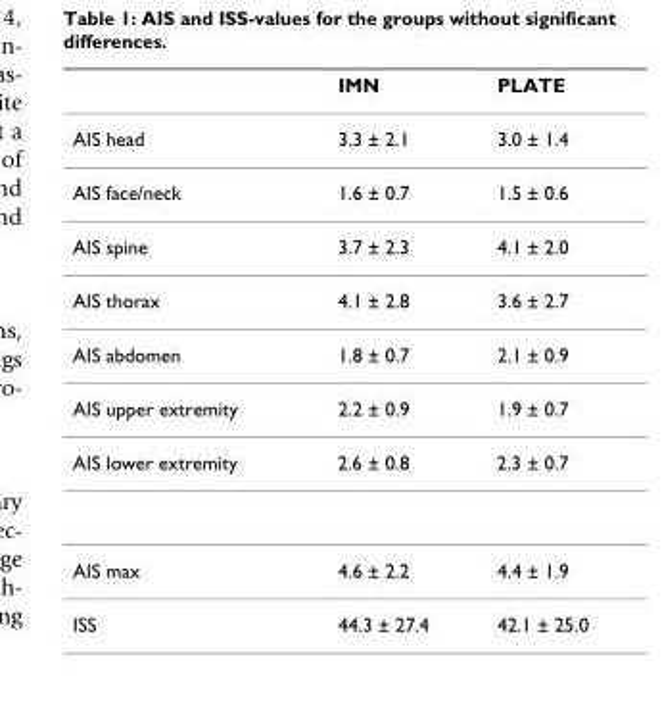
<table><thead><tr><td></td><td>IMN</td><td>PLATE</td></tr></thead><tbody><tr><td>AIS head</td><td>3.3 ± 2.1</td><td>3.0 ± 1.4</td></tr><tr><td>AIS face/neck</td><td>1.6 ± 0.7</td><td>1.5 ± 0.6</td></tr><tr><td>AIS spine</td><td>3.7 ± 2.3</td><td>4.1 ± 2.0</td></tr><tr><td>AIS thorax</td><td>4.1 ± 2.8</td><td>3.6 ± 2.7</td></tr><tr><td>AIS abdomen</td><td>1.8 ± 0.7</td><td>2.1 ± 0.9</td></tr><tr><td>AIS upper extremity</td><td>2.2 ± 0.9</td><td>1.9 ± 0.7</td></tr><tr><td>AIS lower extremity</td><td>2.6 ± 0.8</td><td>2.3 ± 0.7</td></tr><tr><td>AIS max</td><td>4.6 ± 2.2</td><td>4.4 ± 1.9</td></tr><tr><td>ISS</td><td>44.3 ± 27.4</td><td>42.1 ± 25.0</td></tr></tbody></table>